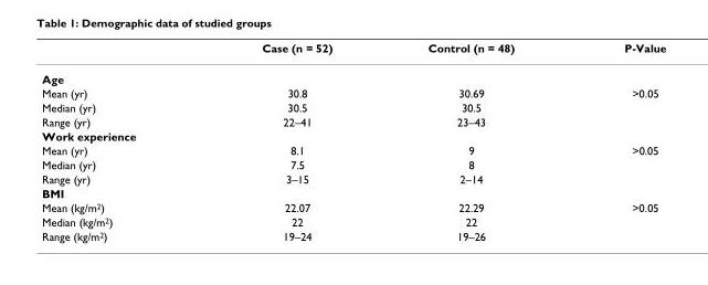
<table><thead><tr><td></td><td>Case (n = 52)</td><td>Control (n = 48)</td><td>P-Value</td></tr></thead><tbody><tr><td colspan="4">Age</td></tr><tr><td>Mean (yr)</td><td>30.8</td><td>30.69</td><td>&gt;0.05</td></tr><tr><td>Median (yr)</td><td>30.5</td><td>30.5</td><td></td></tr><tr><td>Range (yr)</td><td>22–41</td><td>23–43</td><td></td></tr><tr><td colspan="4">Work experience</td></tr><tr><td>Mean (yr)</td><td>8.1</td><td>9</td><td>&gt;0.05</td></tr><tr><td>Median (yr)</td><td>7.5</td><td>8</td><td></td></tr><tr><td>Range (yr)</td><td>3–15</td><td>2–14</td><td></td></tr><tr><td colspan="4">BMI</td></tr><tr><td>Mean (kg/m<sup>2</sup>)</td><td>22.07</td><td>22.29</td><td>&gt;0.05</td></tr><tr><td>Median (kg/m<sup>2</sup>)</td><td>22</td><td>22</td><td></td></tr><tr><td>Range (kg/m<sup>2</sup>)</td><td>19–24</td><td>19–26</td><td></td></tr></tbody></table>